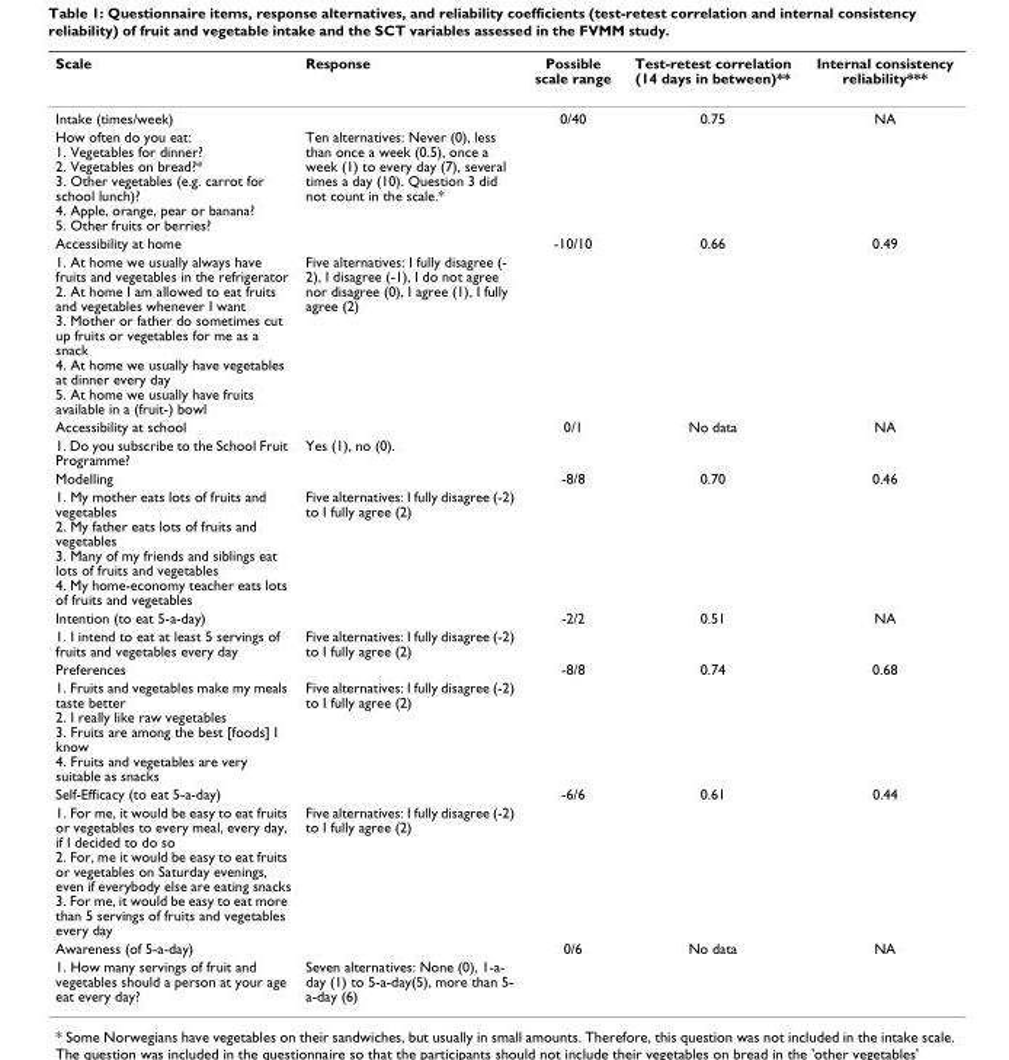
<table><thead><tr><td>Scale</td><td>Response</td><td>Possible scale range</td><td>Test-retest correlation (14 days in between)**</td><td>Internal consistency reliability***</td></tr></thead><tbody><tr><td>Intake (times/week)</td><td></td><td>0/40</td><td>0.75</td><td>NA</td></tr><tr><td>How often do you eat: 1. Vegetables for dinner? 2. Vegetables on bread?* 3. Other vegetables (e.g. carrot for school lunch)? 4. Apple, orange, pear or banana? 5. Other fruits or berries?</td><td>Ten alternatives: Never (0), less than once a week (0.5), once a week (1) to every day (7), several times a day (10). Question 3 did not count in the scale.*</td><td></td><td></td><td></td></tr><tr><td>Accessibility at home</td><td></td><td>-10/10</td><td>0.66</td><td>0.49</td></tr><tr><td>1. At home we usually always have fruits and vegetables in the refrigerator 2. At home I am allowed to eat fruits and vegetables whenever I want 3. Mother or father do sometimes cut up fruits or vegetables for me as a snack 4. At home we usually have vegetables at dinner every day 5. At home we usually have fruits available in a (fruit-) bowl</td><td>Five alternatives: I fully disagree (- 2), I disagree (-1), I do not agree nor disagree (0), I agree (1), I fully agree (2)</td><td></td><td></td><td></td></tr><tr><td>Accessibility at school</td><td></td><td>0/1</td><td>No data</td><td>NA</td></tr><tr><td>1. Do you subscribe to the School Fruit Programme?</td><td>Yes (1), no (0).</td><td></td><td></td><td></td></tr><tr><td>Modelling</td><td></td><td>-8/8</td><td>0.70</td><td>0.46</td></tr><tr><td>1. My mother eats lots of fruits and vegetables 2. My father eats lots of fruits and vegetables 3. Many of my friends and siblings eat lots of fruits and vegetables 4. My home-economy teacher eats lots of fruits and vegetables</td><td>Five alternatives: I fully disagree (-2) to I fully agree (2)</td><td></td><td></td><td></td></tr><tr><td>Intention (to eat 5-a-day)</td><td></td><td>-2/2</td><td>0.51</td><td>NA</td></tr><tr><td>1. I intend to eat at least 5 servings of fruits and vegetables every day</td><td>Five alternatives: I fully disagree (-2) to I fully agree (2)</td><td></td><td></td><td></td></tr><tr><td>Preferences</td><td></td><td>-8/8</td><td>0.74</td><td>0.68</td></tr><tr><td>1. Fruits and vegetables make my meals taste better 2. I really like raw vegetables 3. Fruits are among the best [foods] I know 4. Fruits and vegetables are very suitable as snacks</td><td>Five alternatives: I fully disagree (-2) to I fully agree (2)</td><td></td><td></td><td></td></tr><tr><td>Self-Efficacy (to eat 5-a-day)</td><td></td><td>-6/6</td><td>0.61</td><td>0.44</td></tr><tr><td>1. For me, it would be easy to eat fruits or vegetables to every meal, every day, if I decided to do so 2. For, me it would be easy to eat fruits or vegetables on Saturday evenings, even if everybody else are eating snacks 3. For me, it would be easy to eat more than 5 servings of fruits and vegetables every day</td><td>Five alternatives: I fully disagree (-2) to I fully agree (2)</td><td></td><td></td><td></td></tr><tr><td>Awareness (of 5-a-day)</td><td></td><td>0/6</td><td>No data</td><td>NA</td></tr><tr><td>1. How many servings of fruit and vegetables should a person at your age eat every day?</td><td>Seven alternatives: None (0), 1-a- day (1) to 5-a-day(5), more than 5- a-day (6)</td><td></td><td></td><td></td></tr></tbody></table>